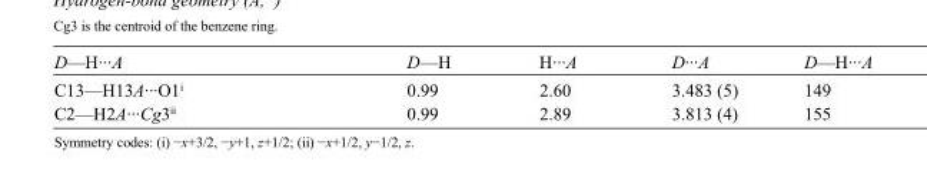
<table><tbody><tr><td>D—H···A</td><td>D—H</td><td>H···A</td><td>D···A</td><td>D—H···A</td></tr><tr><td>C13—H13A···O1<sup>i</sup></td><td>0.99</td><td>2.60</td><td>3.483 (5)</td><td>149</td></tr><tr><td>C2—H2A···Cg3<sup>ii</sup></td><td>0.99</td><td>2.89</td><td>3.813 (4)</td><td>155</td></tr></tbody></table>